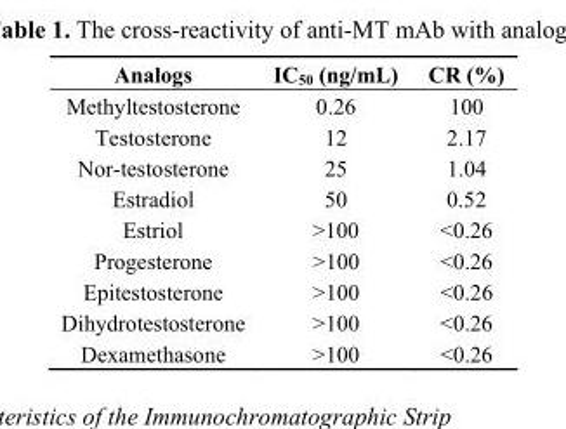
<table><thead><tr><td>Analogs</td><td>IC<sub>50</sub> (ng/mL)</td><td>CR (%)</td></tr></thead><tbody><tr><td>Methyltestosterone</td><td>0.26</td><td>100</td></tr><tr><td>Testosterone</td><td>12</td><td>2.17</td></tr><tr><td>Nor-testosterone</td><td>25</td><td>1.04</td></tr><tr><td>Estradiol</td><td>50</td><td>0.52</td></tr><tr><td>Estriol</td><td>&gt;100</td><td>&lt;0.26</td></tr><tr><td>Progesterone</td><td>&gt;100</td><td>&lt;0.26</td></tr><tr><td>Epitestosterone</td><td>&gt;100</td><td>&lt;0.26</td></tr><tr><td>Dihydrotestosterone</td><td>&gt;100</td><td>&lt;0.26</td></tr><tr><td>Dexamethasone</td><td>&gt;100</td><td>&lt;0.26</td></tr></tbody></table>